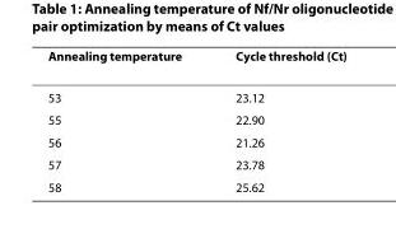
<table><thead><tr><td>Annealing temperature</td><td>Cycle threshold (Ct)</td></tr></thead><tbody><tr><td>53</td><td>23.12</td></tr><tr><td>55</td><td>22.90</td></tr><tr><td>56</td><td>21.26</td></tr><tr><td>57</td><td>23.78</td></tr><tr><td>58</td><td>25.62</td></tr></tbody></table>